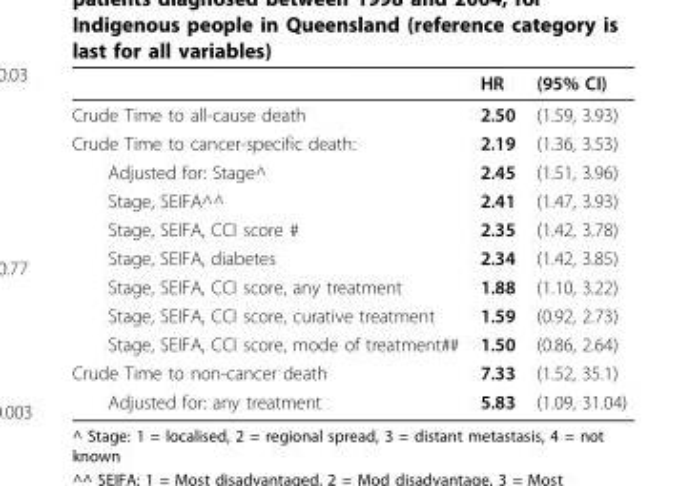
<table><thead><tr><td></td><td>HR</td><td>(95% CI)</td></tr></thead><tbody><tr><td>Crude Time to all-cause death</td><td>2.50</td><td>(1.59, 3.93)</td></tr><tr><td>Crude Time to cancer-specific death:</td><td>2.19</td><td>(1.36, 3.53)</td></tr><tr><td>Adjusted for: Stage^</td><td>2.45</td><td>(1.51, 3.96)</td></tr><tr><td>Stage, SEIFA^^</td><td>2.41</td><td>(1.47, 3.93)</td></tr><tr><td>Stage, SEIFA, CCI score #</td><td>2.35</td><td>(1.42, 3.78)</td></tr><tr><td>Stage, SEIFA, diabetes</td><td>2.34</td><td>(1.42, 3.85)</td></tr><tr><td>Stage, SEIFA, CCI score, any treatment</td><td>1.88</td><td>(1.10, 3.22)</td></tr><tr><td>Stage, SEIFA, CCI score, curative treatment</td><td>1.59</td><td>(0.92, 2.73)</td></tr><tr><td>Stage, SEIFA, CCI score, mode of treatment##</td><td>1.50</td><td>(0.86, 2.64)</td></tr><tr><td>Crude Time to non-cancer death</td><td>7.33</td><td>(1.52, 35.1)</td></tr><tr><td>Adjusted for: any treatment</td><td>5.83</td><td>(1.09, 31.04)</td></tr></tbody></table>